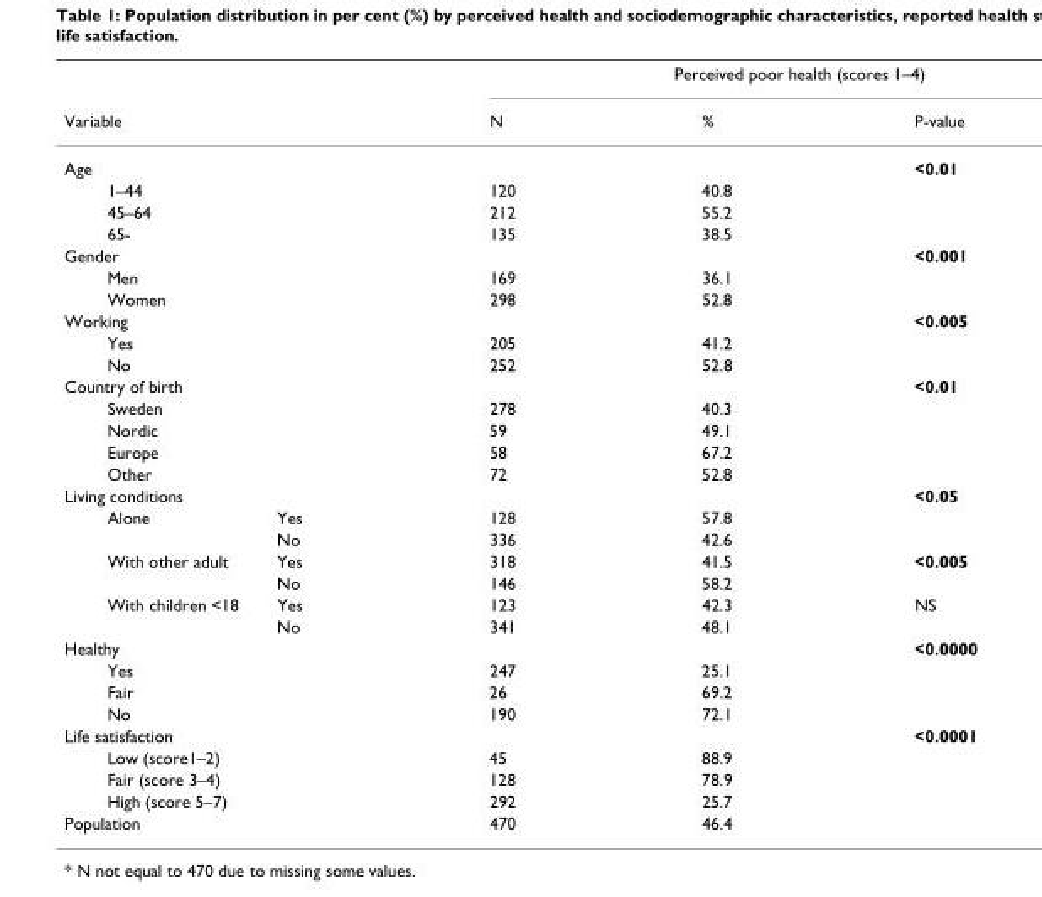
<table><thead><tr><td rowspan="2">Variable</td><td rowspan="2"></td><td colspan="3">Perceived poor health (scores 1–4)</td></tr><tr><td>N</td><td>%</td><td>P-value</td></tr></thead><tbody><tr><td>Age</td><td></td><td></td><td></td><td>&lt;0.01</td></tr><tr><td>1–44</td><td></td><td>120</td><td>40.8</td><td></td></tr><tr><td>45–64</td><td></td><td>212</td><td>55.2</td><td></td></tr><tr><td>65-</td><td></td><td>135</td><td>38.5</td><td></td></tr><tr><td>Gender</td><td></td><td></td><td></td><td>&lt;0.001</td></tr><tr><td>Men</td><td></td><td>169</td><td>36.1</td><td></td></tr><tr><td>Women</td><td></td><td>298</td><td>52.8</td><td></td></tr><tr><td>Working</td><td></td><td></td><td></td><td>&lt;0.005</td></tr><tr><td>Yes</td><td></td><td>205</td><td>41.2</td><td></td></tr><tr><td>No</td><td></td><td>252</td><td>52.8</td><td></td></tr><tr><td>Country of birth</td><td></td><td></td><td></td><td>&lt;0.01</td></tr><tr><td>Sweden</td><td></td><td>278</td><td>40.3</td><td></td></tr><tr><td>Nordic</td><td></td><td>59</td><td>49.1</td><td></td></tr><tr><td>Europe</td><td></td><td>58</td><td>67.2</td><td></td></tr><tr><td>Other</td><td></td><td>72</td><td>52.8</td><td></td></tr><tr><td>Living conditions</td><td></td><td></td><td></td><td>&lt;0.05</td></tr><tr><td rowspan="2">Alone</td><td>Yes</td><td>128</td><td>57.8</td><td></td></tr><tr><td>No</td><td>336</td><td>42.6</td><td></td></tr><tr><td rowspan="2">With other adult</td><td>Yes</td><td>318</td><td>41.5</td><td>&lt;0.005</td></tr><tr><td>No</td><td>146</td><td>58.2</td><td></td></tr><tr><td rowspan="2">With children &lt;18</td><td>Yes</td><td>123</td><td>42.3</td><td>NS</td></tr><tr><td>No</td><td>341</td><td>48.1</td><td></td></tr><tr><td>Healthy</td><td></td><td></td><td></td><td>&lt;0.0000</td></tr><tr><td>Yes</td><td></td><td>247</td><td>25.1</td><td></td></tr><tr><td>Fair</td><td></td><td>26</td><td>69.2</td><td></td></tr><tr><td>No</td><td></td><td>190</td><td>72.1</td><td></td></tr><tr><td>Life satisfaction</td><td></td><td></td><td></td><td>&lt;0.0001</td></tr><tr><td>Low (score1–2)</td><td></td><td>45</td><td>88.9</td><td></td></tr><tr><td>Fair (score 3–4)</td><td></td><td>128</td><td>78.9</td><td></td></tr><tr><td>High (score 5–7)</td><td></td><td>292</td><td>25.7</td><td></td></tr><tr><td>Population</td><td></td><td>470</td><td>46.4</td><td></td></tr></tbody></table>